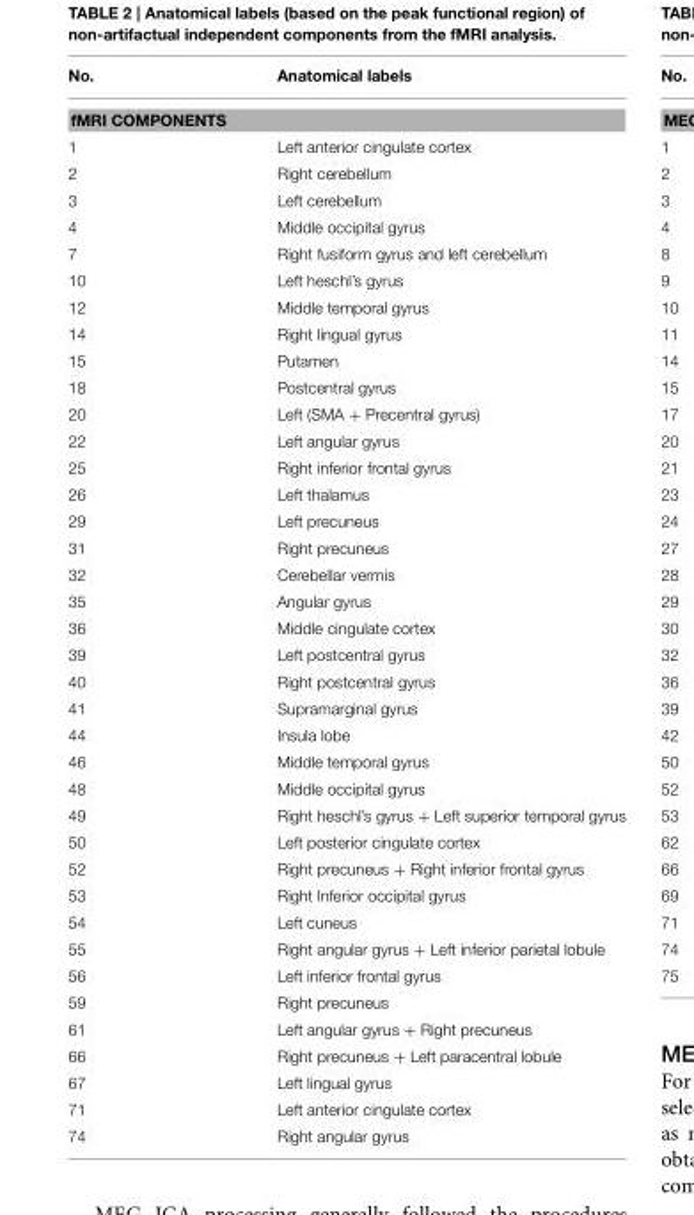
<table><thead><tr><td>No.</td><td>Anatomical labels</td></tr></thead><tbody><tr><td colspan="2">fMRI COMPONENTS</td></tr><tr><td>1</td><td>Left anterior cingulate cortex</td></tr><tr><td>2</td><td>Right cerebellum</td></tr><tr><td>3</td><td>Left cerebellum</td></tr><tr><td>4</td><td>Middle occipital gyrus</td></tr><tr><td>7</td><td>Right fusiform gyrus and left cerebellum</td></tr><tr><td>10</td><td>Left heschl’s gyrus</td></tr><tr><td>12</td><td>Middle temporal gyrus</td></tr><tr><td>14</td><td>Right lingual gyrus</td></tr><tr><td>15</td><td>Putamen</td></tr><tr><td>18</td><td>Postcentral gyrus</td></tr><tr><td>20</td><td>Left (SMA + Precentral gyrus)</td></tr><tr><td>22</td><td>Left angular gyrus</td></tr><tr><td>25</td><td>Right inferior frontal gyrus</td></tr><tr><td>26</td><td>Left thalamus</td></tr><tr><td>29</td><td>Left precuneus</td></tr><tr><td>31</td><td>Right precuneus</td></tr><tr><td>32</td><td>Cerebellar vermis</td></tr><tr><td>35</td><td>Angular gyrus</td></tr><tr><td>36</td><td>Middle cingulate cortex</td></tr><tr><td>39</td><td>Left postcentral gyrus</td></tr><tr><td>40</td><td>Right postcentral gyrus</td></tr><tr><td>41</td><td>Supramarginal gyrus</td></tr><tr><td>44</td><td>Insula lobe</td></tr><tr><td>46</td><td>Middle temporal gyrus</td></tr><tr><td>48</td><td>Middle occipital gyrus</td></tr><tr><td>49</td><td>Right heschl’s gyrus + Left superior temporal gyrus</td></tr><tr><td>50</td><td>Left posterior cingulate cortex</td></tr><tr><td>52</td><td>Right precuneus + Right inferior frontal gyrus</td></tr><tr><td>53</td><td>Right Inferior occipital gyrus</td></tr><tr><td>54</td><td>Left cuneus</td></tr><tr><td>55</td><td>Right angular gyrus + Left inferior parietal lobule</td></tr><tr><td>56</td><td>Left inferior frontal gyrus</td></tr><tr><td>59</td><td>Right precuneus</td></tr><tr><td>61</td><td>Left angular gyrus + Right precuneus</td></tr><tr><td>66</td><td>Right precuneus + Left paracentral lobule</td></tr><tr><td>67</td><td>Left lingual gyrus</td></tr><tr><td>71</td><td>Left anterior cingulate cortex</td></tr><tr><td>74</td><td>Right angular gyrus</td></tr></tbody></table>